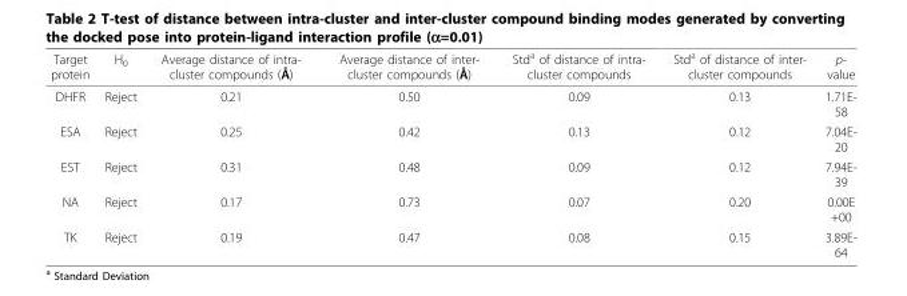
<table><thead><tr><td>Target protein</td><td>H<sub>0</sub></td><td>Average distance of intra- cluster compounds (Å)</td><td>Average distance of inter- cluster compounds (Å)</td><td>Std<sup>a</sup> of distance of intra- cluster compounds</td><td>Std<sup>a</sup> of distance of inter- cluster compounds</td><td>p- value</td></tr></thead><tbody><tr><td>DHFR</td><td>Reject</td><td>0.21</td><td>0.50</td><td>0.09</td><td>0.13</td><td>1.71E- 58</td></tr><tr><td>ESA</td><td>Reject</td><td>0.25</td><td>0.42</td><td>0.13</td><td>0.12</td><td>7.04E- 20</td></tr><tr><td>EST</td><td>Reject</td><td>0.31</td><td>0.48</td><td>0.09</td><td>0.12</td><td>7.94E- 39</td></tr><tr><td>NA</td><td>Reject</td><td>0.17</td><td>0.73</td><td>0.07</td><td>0.20</td><td>0.00E +00</td></tr><tr><td>TK</td><td>Reject</td><td>0.19</td><td>0.47</td><td>0.08</td><td>0.15</td><td>3.89E-</td></tr></tbody></table>